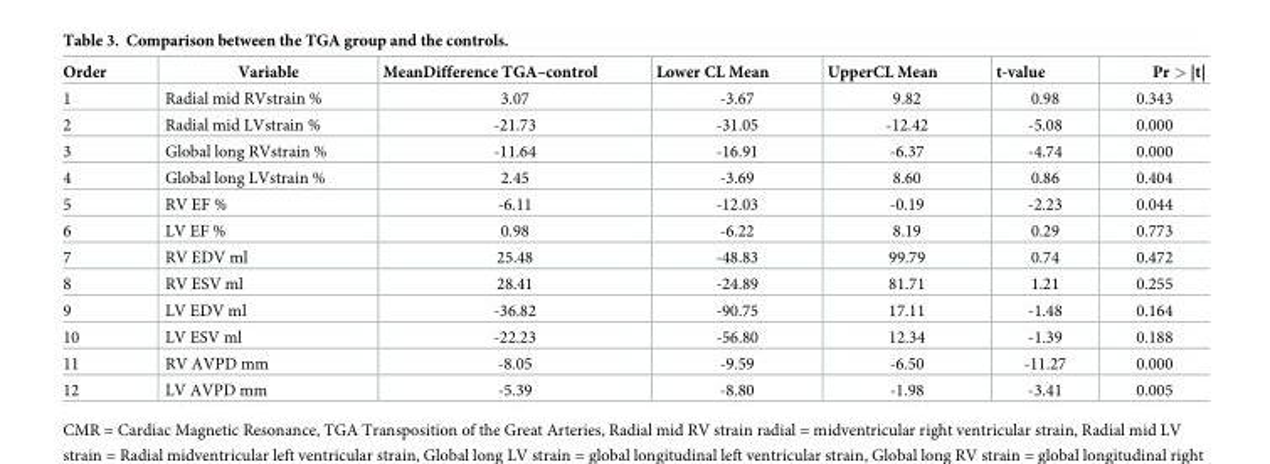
<table><thead><tr><td>Order</td><td>Variable</td><td>MeanDifference TGA–control</td><td>Lower CL Mean</td><td>UpperCL Mean</td><td>t-value</td><td>Pr &gt; |t|</td></tr></thead><tbody><tr><td>1</td><td>Radial mid RVstrain %</td><td>3.07</td><td>-3.67</td><td>9.82</td><td>0.98</td><td>0.343</td></tr><tr><td>2</td><td>Radial mid LVstrain %</td><td>-21.73</td><td>-31.05</td><td>-12.42</td><td>-5.08</td><td>0.000</td></tr><tr><td>3</td><td>Global long RVstrain %</td><td>-11.64</td><td>-16.91</td><td>-6.37</td><td>-4.74</td><td>0.000</td></tr><tr><td>4</td><td>Global long LVstrain %</td><td>2.45</td><td>-3.69</td><td>8.60</td><td>0.86</td><td>0.404</td></tr><tr><td>5</td><td>RV EF %</td><td>-6.11</td><td>-12.03</td><td>-0.19</td><td>-2.23</td><td>0.044</td></tr><tr><td>6</td><td>LV EF %</td><td>0.98</td><td>-6.22</td><td>8.19</td><td>0.29</td><td>0.773</td></tr><tr><td>7</td><td>RV EDV ml</td><td>25.48</td><td>-48.83</td><td>99.79</td><td>0.74</td><td>0.472</td></tr><tr><td>8</td><td>RV ESV ml</td><td>28.41</td><td>-24.89</td><td>81.71</td><td>1.21</td><td>0.255</td></tr><tr><td>9</td><td>LV EDV ml</td><td>-36.82</td><td>-90.75</td><td>17.11</td><td>-1.48</td><td>0.164</td></tr><tr><td>10</td><td>LV ESV ml</td><td>-22.23</td><td>-56.80</td><td>12.34</td><td>-1.39</td><td>0.188</td></tr><tr><td>11</td><td>RV AVPD mm</td><td>-8.05</td><td>-9.59</td><td>-6.50</td><td>-11.27</td><td>0.000</td></tr><tr><td>12</td><td>LV AVPD mm</td><td>-5.39</td><td>-8.80</td><td>-1.98</td><td>-3.41</td><td>0.005</td></tr></tbody></table>